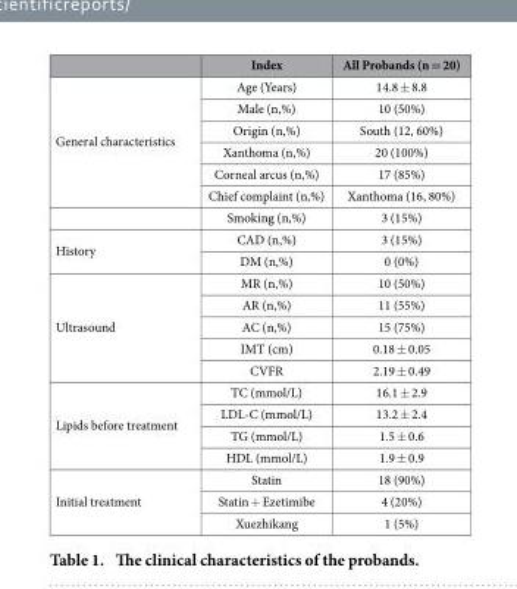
<table><thead><tr><td></td><td>Index</td><td>All Probands (n = 20)</td></tr></thead><tbody><tr><td rowspan="7">General characteristics</td><td>Age (Years)</td><td>14.8 ± 8.8</td></tr><tr><td>Male (n,%)</td><td>10 (50%)</td></tr><tr><td>Origin (n,%)</td><td>South (12, 60%)</td></tr><tr><td>Xanthoma (n,%)</td><td>20 (100%)</td></tr><tr><td>Corneal arcus (n,%)</td><td>17 (85%)</td></tr><tr><td>Chief complaint (n,%)</td><td>Xanthoma (16, 80%)</td></tr><tr><td>Smoking (n,%)</td><td>3 (15%)</td></tr><tr><td rowspan="2">History</td><td>CAD (n,%)</td><td>3 (15%)</td></tr><tr><td>DM (n,%)</td><td>0 (0%)</td></tr><tr><td rowspan="5">Ultrasound</td><td>MR (n,%)</td><td>10 (50%)</td></tr><tr><td>AR (n,%)</td><td>11 (55%)</td></tr><tr><td>AC (n,%)</td><td>15 (75%)</td></tr><tr><td>IMT (cm)</td><td>0.18 ± 0.05</td></tr><tr><td>CVFR</td><td>2.19 ± 0.49</td></tr><tr><td rowspan="4">Lipids before treatment</td><td>TC (mmol/L)</td><td>16.1 ± 2.9</td></tr><tr><td>LDL-C (mmol/L)</td><td>13.2 ± 2.4</td></tr><tr><td>TG (mmol/L)</td><td>1.5 ± 0.6</td></tr><tr><td>HDL (mmol/L)</td><td>1.9 ± 0.9</td></tr><tr><td rowspan="3">Initial treatment</td><td>Statin</td><td>18 (90%)</td></tr><tr><td>Statin + Ezetimibe</td><td>4 (20%)</td></tr><tr><td>Xuezhikang</td><td>1 (5%)</td></tr></tbody></table>